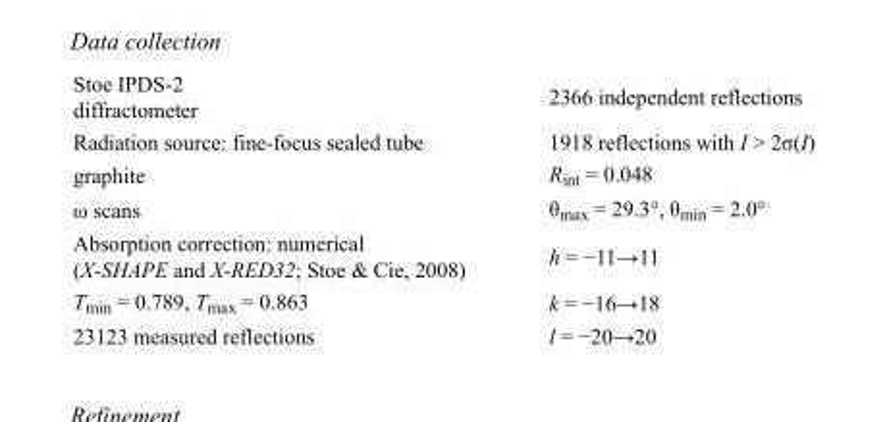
<table><tbody><tr><td>Stoe IPDS-2 diffractometer</td><td>2366 independent reflections</td></tr><tr><td>Radiation source: fine-focus sealed tube</td><td>1918 reflections with I &gt; 2σ(I)</td></tr><tr><td>graphite</td><td>R<sub>int</sub> = 0.048</td></tr><tr><td>ω scans</td><td>θ<sub>max</sub> = 29.3°, θ<sub>min</sub> = 2.0°</td></tr><tr><td>Absorption correction: numerical (X-SHAPE and X-RED32; Stoe &amp; Cie, 2008)</td><td>h = −11→11</td></tr><tr><td>T<sub>min</sub> = 0.789, T<sub>max</sub> = 0.863</td><td>k = −16→18</td></tr><tr><td>23123 measured reflections</td><td>l = −20→20</td></tr></tbody></table>